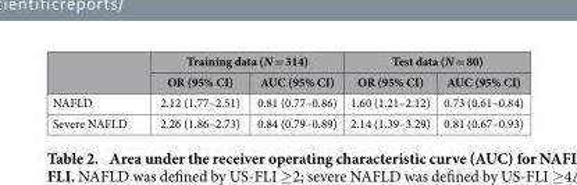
<table><thead><tr><td rowspan="2"></td><td colspan="2">Training data (N = 314)</td><td colspan="2">Test data (N = 80)</td></tr><tr><td>OR (95% CI)</td><td>AUC (95% CI)</td><td>OR (95% CI)</td><td>AUC (95% CI)</td></tr></thead><tbody><tr><td>NAFLD</td><td>2.12 (1.77–2.51)</td><td>0.81 (0.77–0.86)</td><td>1.60 (1.21–2.12)</td><td>0.73 (0.61–0.84)</td></tr><tr><td>Severe NAFLD</td><td>2.26 (1.86–2.73)</td><td>0.84 (0.79–0.89)</td><td>2.14 (1.39–3.29)</td><td>0.81 (0.67–0.93)</td></tr></tbody></table>